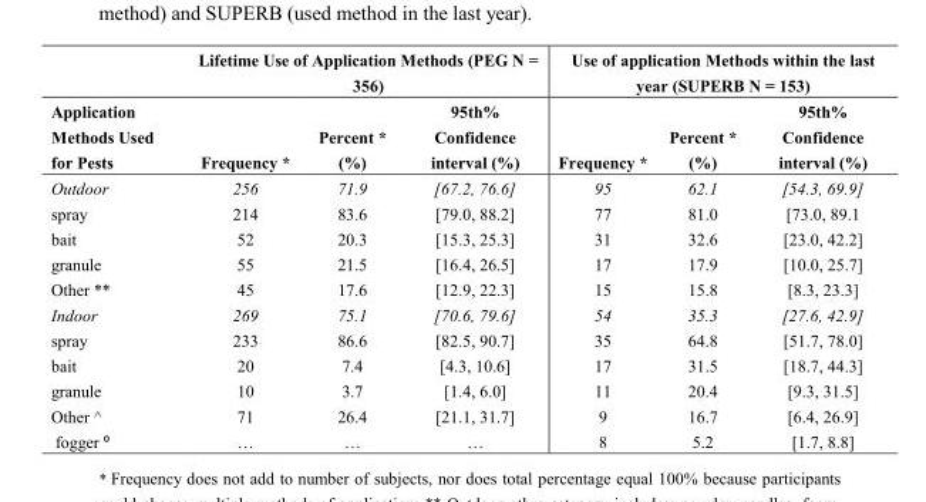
<table><thead><tr><td rowspan="2">Application Methods Used for Pests</td><td colspan="3">Lifetime Use of Application Methods (PEG N = 356)</td><td colspan="3">Use of application Methods within the last year (SUPERB N = 153)</td></tr><tr><td>Frequency *</td><td>Percent * (%)</td><td>95th% Confidence interval (%)</td><td>Frequency *</td><td>Percent * (%)</td><td>95th% Confidence interval (%)</td></tr></thead><tbody><tr><td>Outdoor</td><td>256</td><td>71.9</td><td>[67.2, 76.6]</td><td>95</td><td>62.1</td><td>[54.3, 69.9]</td></tr><tr><td>spray</td><td>214</td><td>83.6</td><td>[79.0, 88.2]</td><td>77</td><td>81.0</td><td>[73.0, 89.1</td></tr><tr><td>bait</td><td>52</td><td>20.3</td><td>[15.3, 25.3]</td><td>31</td><td>32.6</td><td>[23.0, 42.2]</td></tr><tr><td>granule</td><td>55</td><td>21.5</td><td>[16.4, 26.5]</td><td>17</td><td>17.9</td><td>[10.0, 25.7]</td></tr><tr><td>Other **</td><td>45</td><td>17.6</td><td>[12.9, 22.3]</td><td>15</td><td>15.8</td><td>[8.3, 23.3]</td></tr><tr><td>Indoor</td><td>269</td><td>75.1</td><td>[70.6, 79.6]</td><td>54</td><td>35.3</td><td>[27.6, 42.9]</td></tr><tr><td>spray</td><td>233</td><td>86.6</td><td>[82.5, 90.7]</td><td>35</td><td>64.8</td><td>[51.7, 78.0]</td></tr><tr><td>bait</td><td>20</td><td>7.4</td><td>[4.3, 10.6]</td><td>17</td><td>31.5</td><td>[18.7, 44.3]</td></tr><tr><td>granule</td><td>10</td><td>3.7</td><td>[1.4, 6.0]</td><td>11</td><td>20.4</td><td>[9.3, 31.5]</td></tr><tr><td>Other <sup>^</sup></td><td>71</td><td>26.4</td><td>[21.1, 31.7]</td><td>9</td><td>16.7</td><td>[6.4, 26.9]</td></tr><tr><td>fogger <sup>º</sup></td><td>…</td><td>…</td><td>…</td><td>8</td><td>5.2</td><td>[1.7, 8.8]</td></tr></tbody></table>